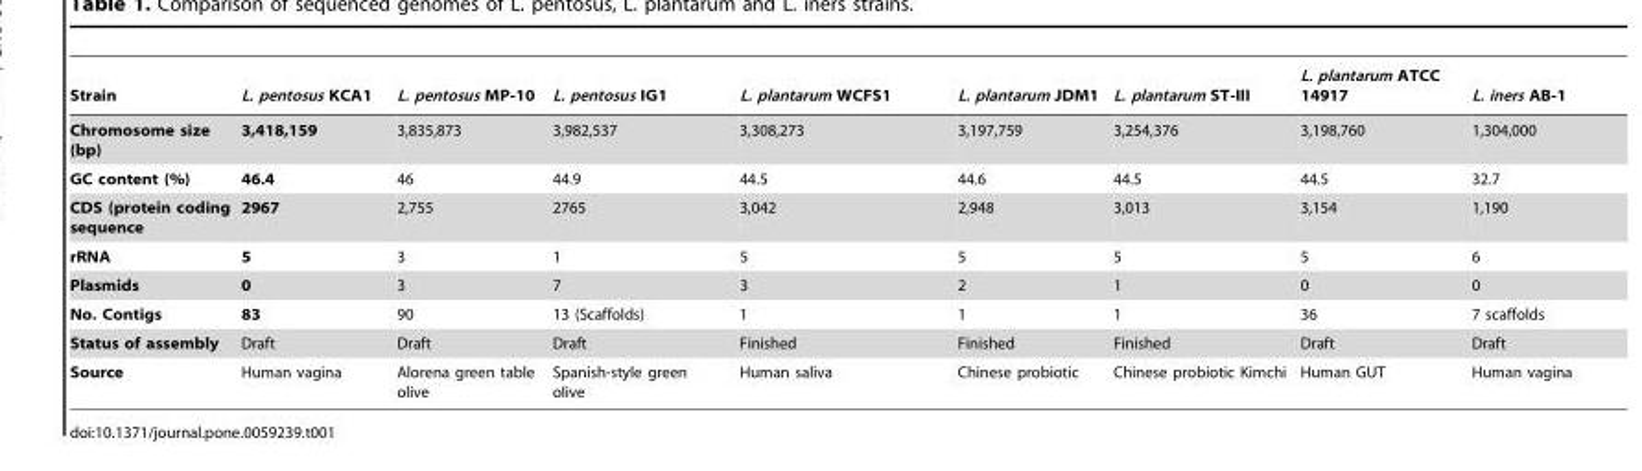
<table><thead><tr><td>Strain</td><td>L. pentosus KCA1</td><td>L. pentosus MP-10</td><td>L. pentosus IG1</td><td>L. plantarum WCFS1</td><td>L. plantarum JDM1</td><td>L. plantarum ST-III</td><td>L. plantarum ATCC 14917</td><td>L. iners AB-1</td></tr></thead><tbody><tr><td>Chromosome size (bp)</td><td>3,418,159</td><td>3,835,873</td><td>3,982,537</td><td>3,308,273</td><td>3,197,759</td><td>3,254,376</td><td>3,198,760</td><td>1,304,000</td></tr><tr><td>GC content (%)</td><td>46.4</td><td>46</td><td>44.9</td><td>44.5</td><td>44.6</td><td>44.5</td><td>44.5</td><td>32.7</td></tr><tr><td>CDS (protein coding sequence</td><td>2967</td><td>2,755</td><td>2765</td><td>3,042</td><td>2,948</td><td>3,013</td><td>3,154</td><td>1,190</td></tr><tr><td>rRNA</td><td>5</td><td>3</td><td>1</td><td>5</td><td>5</td><td>5</td><td>5</td><td>6</td></tr><tr><td>Plasmids</td><td>0</td><td>3</td><td>7</td><td>3</td><td>2</td><td>1</td><td>0</td><td>0</td></tr><tr><td>No. Contigs</td><td>83</td><td>90</td><td>13 (Scaffolds)</td><td>1</td><td>1</td><td>1</td><td>36</td><td>7 scaffolds</td></tr><tr><td>Status of assembly</td><td>Draft</td><td>Draft</td><td>Draft</td><td>Finished</td><td>Finished</td><td>Finished</td><td>Draft</td><td>Draft</td></tr><tr><td>Source</td><td>Human vagina</td><td>Alorena green table olive</td><td>Spanish-style green olive</td><td>Human saliva</td><td>Chinese probiotic</td><td>Chinese probiotic Kimchi</td><td>Human GUT</td><td>Human vagina</td></tr></tbody></table>